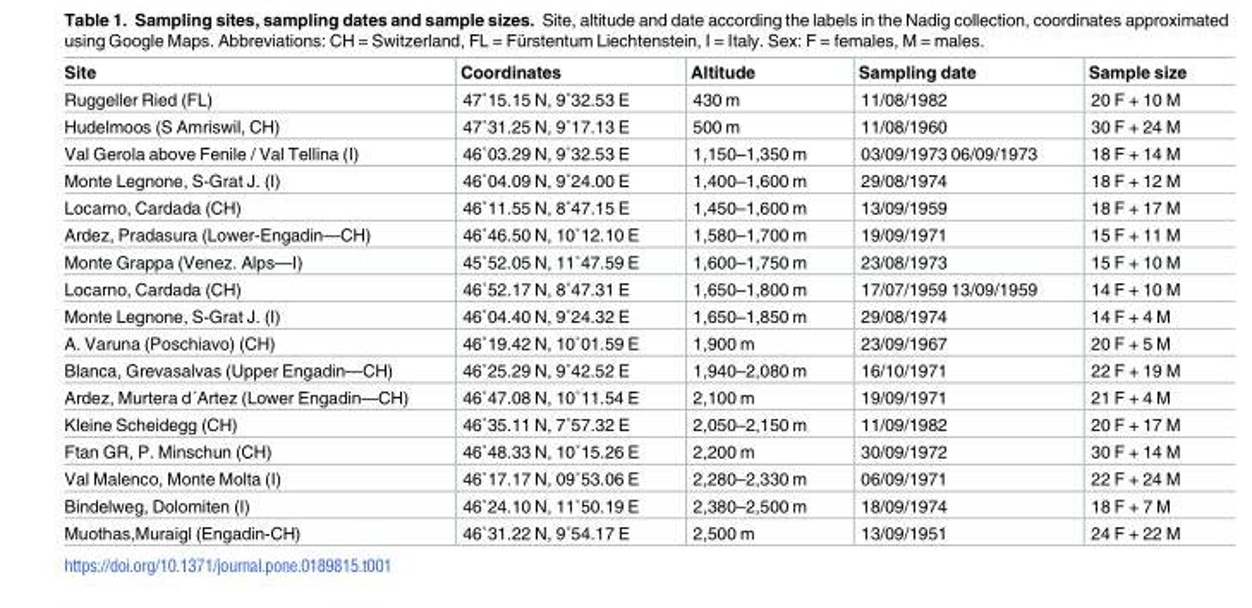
<table><thead><tr><td>Site</td><td>Coordinates</td><td>Altitude</td><td>Sampling date</td><td>Sample size</td></tr></thead><tbody><tr><td>Ruggeller Ried (FL)</td><td>47˚15.15 N, 9˚32.53 E</td><td>430 m</td><td>11/08/1982</td><td>20 F + 10 M</td></tr><tr><td>Hudelmoos (S Amriswil, CH)</td><td>47˚31.25 N, 9˚17.13 E</td><td>500 m</td><td>11/08/1960</td><td>30 F + 24 M</td></tr><tr><td>Val Gerola above Fenile / Val Tellina (I)</td><td>46˚03.29 N, 9˚32.53 E</td><td>1,150–1,350 m</td><td>03/09/1973 06/09/1973</td><td>18 F + 14 M</td></tr><tr><td>Monte Legnone, S-Grat J. (I)</td><td>46˚04.09 N, 9˚24.00 E</td><td>1,400–1,600 m</td><td>29/08/1974</td><td>18 F + 12 M</td></tr><tr><td>Locarno, Cardada (CH)</td><td>46˚11.55 N, 8˚47.15 E</td><td>1,450–1,600 m</td><td>13/09/1959</td><td>18 F + 17 M</td></tr><tr><td>Ardez, Pradasura (Lower-Engadin—CH)</td><td>46˚46.50 N, 10˚12.10 E</td><td>1,580–1,700 m</td><td>19/09/1971</td><td>15 F + 11 M</td></tr><tr><td>Monte Grappa (Venez. Alps—I)</td><td>45˚52.05 N, 11˚47.59 E</td><td>1,600–1,750 m</td><td>23/08/1973</td><td>15 F + 10 M</td></tr><tr><td>Locarno, Cardada (CH)</td><td>46˚52.17 N, 8˚47.31 E</td><td>1,650–1,800 m</td><td>17/07/1959 13/09/1959</td><td>14 F + 10 M</td></tr><tr><td>Monte Legnone, S-Grat J. (I)</td><td>46˚04.40 N, 9˚24.32 E</td><td>1,650–1,850 m</td><td>29/08/1974</td><td>14 F + 4 M</td></tr><tr><td>A. Varuna (Poschiavo) (CH)</td><td>46˚19.42 N, 10˚01.59 E</td><td>1,900 m</td><td>23/09/1967</td><td>20 F + 5 M</td></tr><tr><td>Blanca, Grevasalvas (Upper Engadin—CH)</td><td>46˚25.29 N, 9˚42.52 E</td><td>1,940–2,080 m</td><td>16/10/1971</td><td>22 F + 19 M</td></tr><tr><td>Ardez, Murtera d´Artez (Lower Engadin—CH)</td><td>46˚47.08 N, 10˚11.54 E</td><td>2,100 m</td><td>19/09/1971</td><td>21 F + 4 M</td></tr><tr><td>Kleine Scheidegg (CH)</td><td>46˚35.11 N, 7˚57.32 E</td><td>2,050–2,150 m</td><td>11/09/1982</td><td>20 F + 17 M</td></tr><tr><td>Ftan GR, P. Minschun (CH)</td><td>46˚48.33 N, 10˚15.26 E</td><td>2,200 m</td><td>30/09/1972</td><td>30 F + 14 M</td></tr><tr><td>Val Malenco, Monte Molta (I)</td><td>46˚17.17 N, 09˚53.06 E</td><td>2,280–2,330 m</td><td>06/09/1971</td><td>22 F + 24 M</td></tr><tr><td>Bindelweg, Dolomiten (I)</td><td>46˚24.10 N, 11˚50.19 E</td><td>2,380–2,500 m</td><td>18/09/1974</td><td>18 F + 7 M</td></tr><tr><td>Muothas,Muraigl (Engadin-CH)</td><td>46˚31.22 N, 9˚54.17 E</td><td>2,500 m</td><td>13/09/1951</td><td>24 F + 22 M</td></tr></tbody></table>